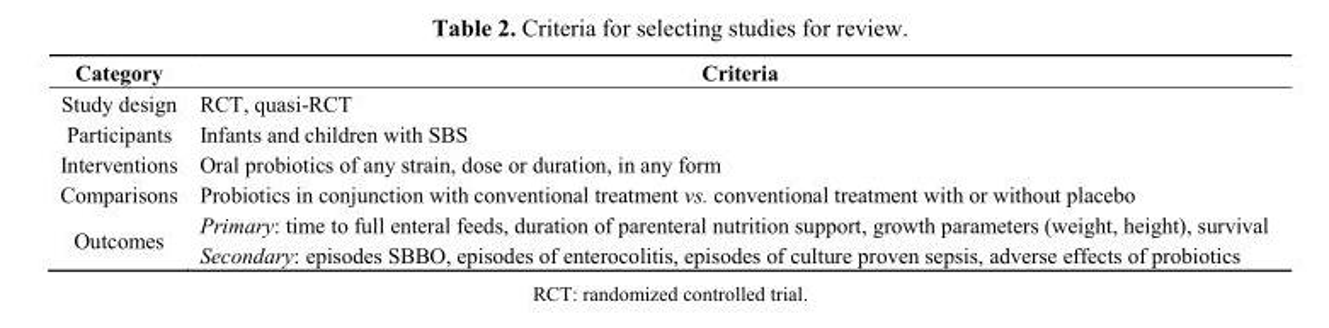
<table><thead><tr><td>Category</td><td>Criteria</td></tr></thead><tbody><tr><td>Study design</td><td>RCT, quasi-RCT</td></tr><tr><td>Participants</td><td>Infants and children with SBS</td></tr><tr><td>Interventions</td><td>Oral probiotics of any strain, dose or duration, in any form</td></tr><tr><td>Comparisons</td><td>Probiotics in conjunction with conventional treatment vs. conventional treatment with or without placebo</td></tr><tr><td rowspan="2">Outcomes</td><td>Primary: time to full enteral feeds, duration of parenteral nutrition support, growth parameters (weight, height), survival</td></tr><tr><td>Secondary: episodes SBBO, episodes of enterocolitis, episodes of culture proven sepsis, adverse effects of probiotics</td></tr></tbody></table>